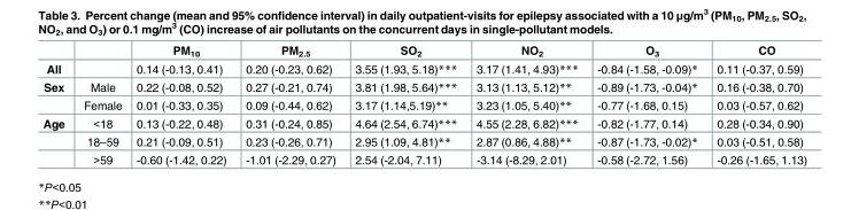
<table><thead><tr><td></td><td></td><td>PM<sub>10</sub></td><td>PM<sub>2.5</sub></td><td>SO<sub>2</sub></td><td>NO<sub>2</sub></td><td>O<sub>3</sub></td><td>CO</td></tr></thead><tbody><tr><td>All</td><td></td><td>0.14 (-0.13, 0.41)</td><td>0.20 (-0.23, 0.62)</td><td>3.55 (1.93, 5.18)***</td><td>3.17 (1.41, 4.93)***</td><td>-0.84 (-1.58, -0.09)*</td><td>0.11 (-0.37, 0.59)</td></tr><tr><td rowspan="2">Sex</td><td>Male</td><td>0.22 (-0.08, 0.52)</td><td>0.27 (-0.21, 0.74)</td><td>3.81 (1.98, 5.64)***</td><td>3.13 (1.13, 5.12)**</td><td>-0.89 (-1.73, -0.04)*</td><td>0.16 (-0.38, 0.70)</td></tr><tr><td>Female</td><td>0.01 (-0.33, 0.35)</td><td>0.09 (-0.44, 0.62)</td><td>3.17 (1.14,5.19)**</td><td>3.23 (1.05, 5.40)**</td><td>-0.77 (-1.68, 0.15)</td><td>0.03 (-0.57, 0.62)</td></tr><tr><td rowspan="3">Age</td><td>&lt;18</td><td>0.13 (-0.22, 0.48)</td><td>0.31 (-0.24, 0.85)</td><td>4.64 (2.54, 6.74)***</td><td>4.55 (2.28, 6.82)***</td><td>-0.82 (-1.77, 0.14)</td><td>0.28 (-0.34, 0.90)</td></tr><tr><td>18–59</td><td>0.21 (-0.09, 0.51)</td><td>0.23 (-0.26, 0.71)</td><td>2.95 (1.09, 4.81)**</td><td>2.87 (0.86, 4.88)**</td><td>-0.87 (-1.73, -0.02)*</td><td>0.03 (-0.51, 0.58)</td></tr><tr><td>&gt;59</td><td>-0.60 (-1.42, 0.22)</td><td>-1.01 (-2.29, 0.27)</td><td>2.54 (-2.04, 7.11)</td><td>-3.14 (-8.29, 2.01)</td><td>-0.58 (-2.72, 1.56)</td><td>-0.26 (-1.65, 1.13)</td></tr></tbody></table>